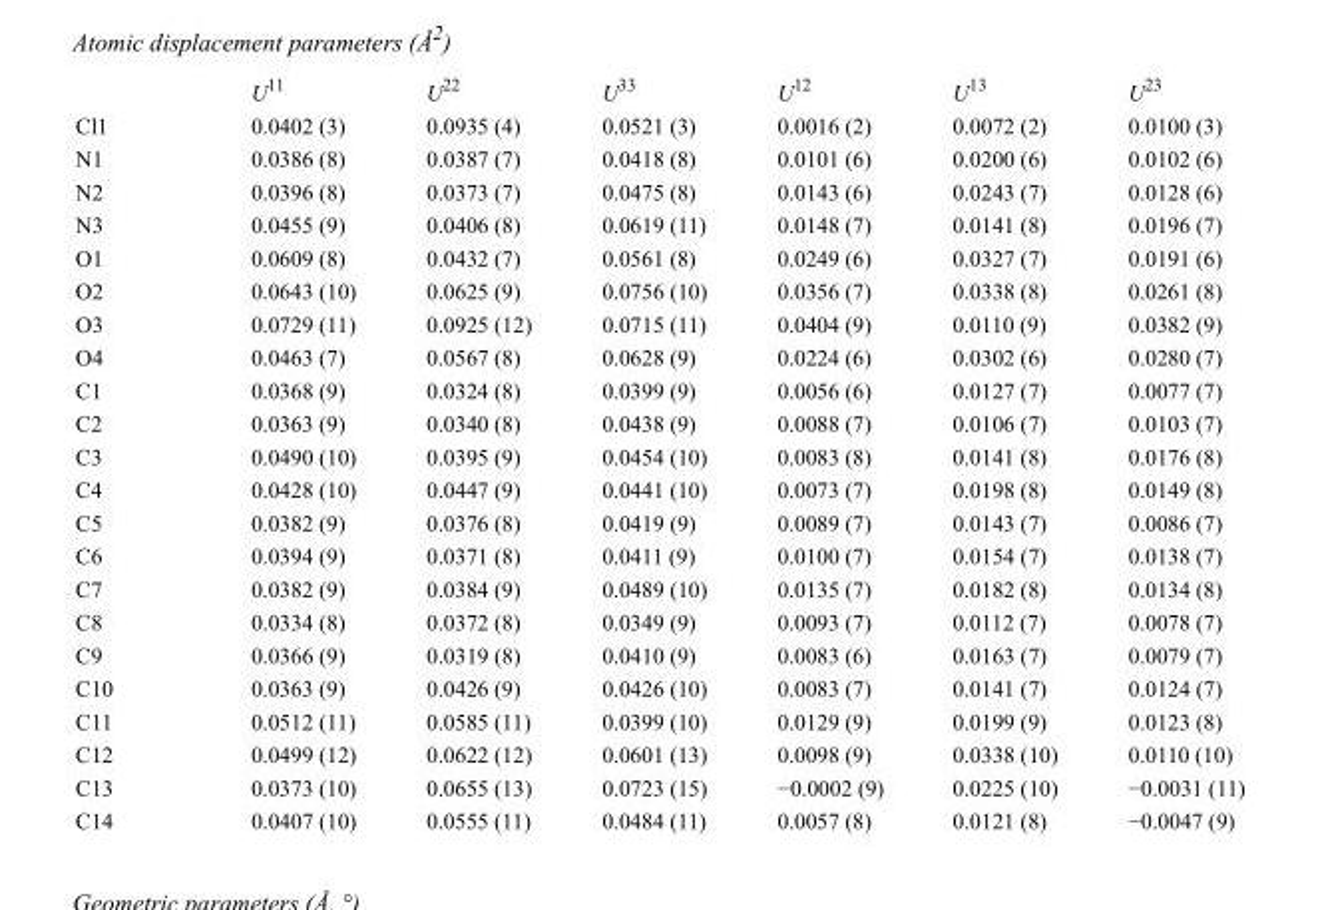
<table><thead><tr><td></td><td>U<sup>11</sup></td><td>U<sup>22</sup></td><td>U<sup>33</sup></td><td>U<sup>12</sup></td><td>U<sup>13</sup></td><td>U<sup>23</sup></td></tr></thead><tbody><tr><td>Cl1</td><td>0.0402 (3)</td><td>0.0935 (4)</td><td>0.0521 (3)</td><td>0.0016 (2)</td><td>0.0072 (2)</td><td>0.0100 (3)</td></tr><tr><td>N1</td><td>0.0386 (8)</td><td>0.0387 (7)</td><td>0.0418 (8)</td><td>0.0101 (6)</td><td>0.0200 (6)</td><td>0.0102 (6)</td></tr><tr><td>N2</td><td>0.0396 (8)</td><td>0.0373 (7)</td><td>0.0475 (8)</td><td>0.0143 (6)</td><td>0.0243 (7)</td><td>0.0128 (6)</td></tr><tr><td>N3</td><td>0.0455 (9)</td><td>0.0406 (8)</td><td>0.0619 (11)</td><td>0.0148 (7)</td><td>0.0141 (8)</td><td>0.0196 (7)</td></tr><tr><td>O1</td><td>0.0609 (8)</td><td>0.0432 (7)</td><td>0.0561 (8)</td><td>0.0249 (6)</td><td>0.0327 (7)</td><td>0.0191 (6)</td></tr><tr><td>O2</td><td>0.0643 (10)</td><td>0.0625 (9)</td><td>0.0756 (10)</td><td>0.0356 (7)</td><td>0.0338 (8)</td><td>0.0261 (8)</td></tr><tr><td>O3</td><td>0.0729 (11)</td><td>0.0925 (12)</td><td>0.0715 (11)</td><td>0.0404 (9)</td><td>0.0110 (9)</td><td>0.0382 (9)</td></tr><tr><td>O4</td><td>0.0463 (7)</td><td>0.0567 (8)</td><td>0.0628 (9)</td><td>0.0224 (6)</td><td>0.0302 (6)</td><td>0.0280 (7)</td></tr><tr><td>C1</td><td>0.0368 (9)</td><td>0.0324 (8)</td><td>0.0399 (9)</td><td>0.0056 (6)</td><td>0.0127 (7)</td><td>0.0077 (7)</td></tr><tr><td>C2</td><td>0.0363 (9)</td><td>0.0340 (8)</td><td>0.0438 (9)</td><td>0.0088 (7)</td><td>0.0106 (7)</td><td>0.0103 (7)</td></tr><tr><td>C3</td><td>0.0490 (10)</td><td>0.0395 (9)</td><td>0.0454 (10)</td><td>0.0083 (8)</td><td>0.0141 (8)</td><td>0.0176 (8)</td></tr><tr><td>C4</td><td>0.0428 (10)</td><td>0.0447 (9)</td><td>0.0441 (10)</td><td>0.0073 (7)</td><td>0.0198 (8)</td><td>0.0149 (8)</td></tr><tr><td>C5</td><td>0.0382 (9)</td><td>0.0376 (8)</td><td>0.0419 (9)</td><td>0.0089 (7)</td><td>0.0143 (7)</td><td>0.0086 (7)</td></tr><tr><td>C6</td><td>0.0394 (9)</td><td>0.0371 (8)</td><td>0.0411 (9)</td><td>0.0100 (7)</td><td>0.0154 (7)</td><td>0.0138 (7)</td></tr><tr><td>C7</td><td>0.0382 (9)</td><td>0.0384 (9)</td><td>0.0489 (10)</td><td>0.0135 (7)</td><td>0.0182 (8)</td><td>0.0134 (8)</td></tr><tr><td>C8</td><td>0.0334 (8)</td><td>0.0372 (8)</td><td>0.0349 (9)</td><td>0.0093 (7)</td><td>0.0112 (7)</td><td>0.0078 (7)</td></tr><tr><td>C9</td><td>0.0366 (9)</td><td>0.0319 (8)</td><td>0.0410 (9)</td><td>0.0083 (6)</td><td>0.0163 (7)</td><td>0.0079 (7)</td></tr><tr><td>C10</td><td>0.0363 (9)</td><td>0.0426 (9)</td><td>0.0426 (10)</td><td>0.0083 (7)</td><td>0.0141 (7)</td><td>0.0124 (7)</td></tr><tr><td>C11</td><td>0.0512 (11)</td><td>0.0585 (11)</td><td>0.0399 (10)</td><td>0.0129 (9)</td><td>0.0199 (9)</td><td>0.0123 (8)</td></tr><tr><td>C12</td><td>0.0499 (12)</td><td>0.0622 (12)</td><td>0.0601 (13)</td><td>0.0098 (9)</td><td>0.0338 (10)</td><td>0.0110 (10)</td></tr><tr><td>C13</td><td>0.0373 (10)</td><td>0.0655 (13)</td><td>0.0723 (15)</td><td>−0.0002 (9)</td><td>0.0225 (10)</td><td>−0.0031 (11)</td></tr><tr><td>C14</td><td>0.0407 (10)</td><td>0.0555 (11)</td><td>0.0484 (11)</td><td>0.0057 (8)</td><td>0.0121 (8)</td><td>−0.0047 (9)</td></tr></tbody></table>